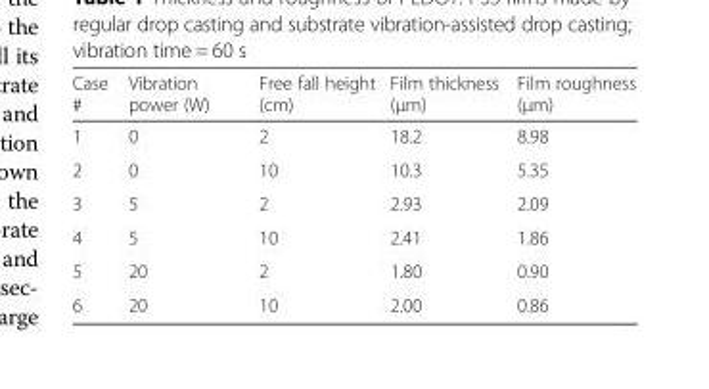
<table><thead><tr><td>Case #</td><td>Vibration power (W)</td><td>Free fall height (cm)</td><td>Film thickness (μm)</td><td>Film roughness (μm)</td></tr></thead><tbody><tr><td>1</td><td>0</td><td>2</td><td>18.2</td><td>8.98</td></tr><tr><td>2</td><td>0</td><td>10</td><td>10.3</td><td>5.35</td></tr><tr><td>3</td><td>5</td><td>2</td><td>2.93</td><td>2.09</td></tr><tr><td>4</td><td>5</td><td>10</td><td>2.41</td><td>1.86</td></tr><tr><td>5</td><td>20</td><td>2</td><td>1.80</td><td>0.90</td></tr><tr><td>6</td><td>20</td><td>10</td><td>2.00</td><td>0.86</td></tr></tbody></table>